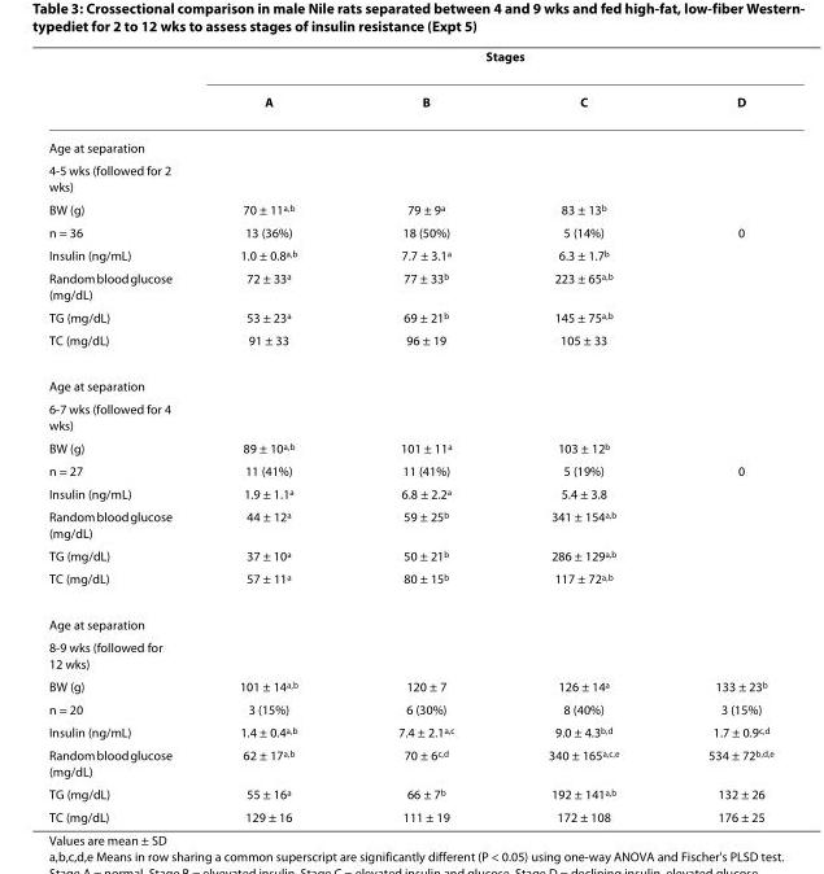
<table><thead><tr><td rowspan="2"></td><td colspan="4">Stages</td></tr><tr><td>A</td><td>B</td><td>C</td><td>D</td></tr></thead><tbody><tr><td colspan="5">Age at separation</td></tr><tr><td colspan="5">4-5 wks (followed for 2 wks)</td></tr><tr><td>BW (g)</td><td>70 ± 11<sup>a,b</sup></td><td>79 ± 9<sup>a</sup></td><td>83 ± 13<sup>b</sup></td><td></td></tr><tr><td>n = 36</td><td>13 (36%)</td><td>18 (50%)</td><td>5 (14%)</td><td>0</td></tr><tr><td>Insulin (ng/mL)</td><td>1.0 ± 0.8<sup>a,b</sup></td><td>7.7 ± 3.1<sup>a</sup></td><td>6.3 ± 1.7<sup>b</sup></td><td></td></tr><tr><td>Random blood glucose (mg/dL)</td><td>72 ± 33<sup>a</sup></td><td>77 ± 33<sup>b</sup></td><td>223 ± 65<sup>a,b</sup></td><td></td></tr><tr><td>TG (mg/dL)</td><td>53 ± 23<sup>a</sup></td><td>69 ± 21<sup>b</sup></td><td>145 ± 75<sup>a,b</sup></td><td></td></tr><tr><td>TC (mg/dL)</td><td>91 ± 33</td><td>96 ± 19</td><td>105 ± 33</td><td></td></tr><tr><td colspan="5">Age at separation</td></tr><tr><td colspan="5">6-7 wks (followed for 4 wks)</td></tr><tr><td>BW (g)</td><td>89 ± 10<sup>a,b</sup></td><td>101 ± 11<sup>a</sup></td><td>103 ± 12<sup>b</sup></td><td></td></tr><tr><td>n = 27</td><td>11 (41%)</td><td>11 (41%)</td><td>5 (19%)</td><td>0</td></tr><tr><td>Insulin (ng/mL)</td><td>1.9 ± 1.1<sup>a</sup></td><td>6.8 ± 2.2<sup>a</sup></td><td>5.4 ± 3.8</td><td></td></tr><tr><td>Random blood glucose (mg/dL)</td><td>44 ± 12<sup>a</sup></td><td>59 ± 25<sup>b</sup></td><td>341 ± 154<sup>a,b</sup></td><td></td></tr><tr><td>TG (mg/dL)</td><td>37 ± 10<sup>a</sup></td><td>50 ± 21<sup>b</sup></td><td>286 ± 129<sup>a,b</sup></td><td></td></tr><tr><td>TC (mg/dL)</td><td>57 ± 11<sup>a</sup></td><td>80 ± 15<sup>b</sup></td><td>117 ± 72<sup>a,b</sup></td><td></td></tr><tr><td colspan="5">Age at separation</td></tr><tr><td colspan="5">8-9 wks (followed for 12 wks)</td></tr><tr><td>BW (g)</td><td>101 ± 14<sup>a,b</sup></td><td>120 ± 7</td><td>126 ± 14<sup>a</sup></td><td>133 ± 23<sup>b</sup></td></tr><tr><td>n = 20</td><td>3 (15%)</td><td>6 (30%)</td><td>8 (40%)</td><td>3 (15%)</td></tr><tr><td>Insulin (ng/mL)</td><td>1.4 ± 0.4<sup>a,b</sup></td><td>7.4 ± 2.1<sup>a,c</sup></td><td>9.0 ± 4.3<sup>b,d</sup></td><td>1.7 ± 0.9<sup>c,d</sup></td></tr><tr><td>Random blood glucose (mg/dL)</td><td>62 ± 17<sup>a,b</sup></td><td>70 ± 6<sup>c,d</sup></td><td>340 ± 165<sup>a,c,e</sup></td><td>534 ± 72<sup>b,d,e</sup></td></tr><tr><td>TG (mg/dL)</td><td>55 ± 16<sup>a</sup></td><td>66 ± 7<sup>b</sup></td><td>192 ± 141<sup>a,b</sup></td><td>132 ± 26</td></tr><tr><td>TC (mg/dL)</td><td>129 ± 16</td><td>111 ± 19</td><td>172 ± 108</td><td>176 ± 25</td></tr></tbody></table>